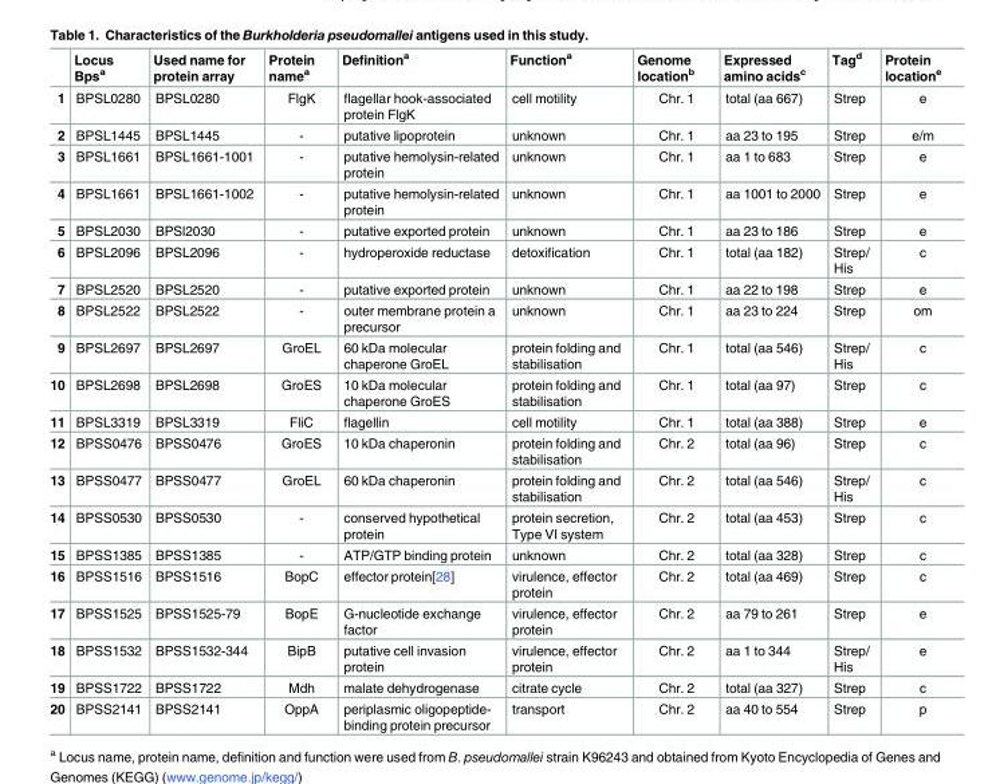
<table><thead><tr><td></td><td>Locus Bps<sup>a</sup></td><td>Used name for protein array</td><td>Protein name<sup>a</sup></td><td>Definition<sup>a</sup></td><td>Function<sup>a</sup></td><td>Genome location<sup>b</sup></td><td>Expressed amino acids<sup>c</sup></td><td>Tag<sup>d</sup></td><td>Protein location<sup>e</sup></td></tr></thead><tbody><tr><td>1</td><td>BPSL0280</td><td>BPSL0280</td><td>FlgK</td><td>flagellar hook-associated protein FlgK</td><td>cell motility</td><td>Chr. 1</td><td>total (aa 667)</td><td>Strep</td><td>e</td></tr><tr><td>2</td><td>BPSL1445</td><td>BPSL1445</td><td>-</td><td>putative lipoprotein</td><td>unknown</td><td>Chr. 1</td><td>aa 23 to 195</td><td>Strep</td><td>e/m</td></tr><tr><td>3</td><td>BPSL1661</td><td>BPSL1661-1001</td><td>-</td><td>putative hemolysin-related protein</td><td>unknown</td><td>Chr. 1</td><td>aa 1 to 683</td><td>Strep</td><td>e</td></tr><tr><td>4</td><td>BPSL1661</td><td>BPSL1661-1002</td><td>-</td><td>putative hemolysin-related protein</td><td>unknown</td><td>Chr. 1</td><td>aa 1001 to 2000</td><td>Strep</td><td>e</td></tr><tr><td>5</td><td>BPSL2030</td><td>BPSl2030</td><td>-</td><td>putative exported protein</td><td>unknown</td><td>Chr. 1</td><td>aa 23 to 186</td><td>Strep</td><td>e</td></tr><tr><td>6</td><td>BPSL2096</td><td>BPSL2096</td><td>-</td><td>hydroperoxide reductase</td><td>detoxification</td><td>Chr. 1</td><td>total (aa 182)</td><td>Strep/ His</td><td>c</td></tr><tr><td>7</td><td>BPSL2520</td><td>BPSL2520</td><td>-</td><td>putative exported protein</td><td>unknown</td><td>Chr. 1</td><td>aa 22 to 198</td><td>Strep</td><td>e</td></tr><tr><td>8</td><td>BPSL2522</td><td>BPSL2522</td><td>-</td><td>outer membrane protein a precursor</td><td>unknown</td><td>Chr. 1</td><td>aa 23 to 224</td><td>Strep</td><td>om</td></tr><tr><td>9</td><td>BPSL2697</td><td>BPSL2697</td><td>GroEL</td><td>60 kDa molecular chaperone GroEL</td><td>protein folding and stabilisation</td><td>Chr. 1</td><td>total (aa 546)</td><td>Strep/ His</td><td>c</td></tr><tr><td>10</td><td>BPSL2698</td><td>BPSL2698</td><td>GroES</td><td>10 kDa molecular chaperone GroES</td><td>protein folding and stabilisation</td><td>Chr. 1</td><td>total (aa 97)</td><td>Strep</td><td>c</td></tr><tr><td>11</td><td>BPSL3319</td><td>BPSL3319</td><td>FliC</td><td>flagellin</td><td>cell motility</td><td>Chr. 1</td><td>total (aa 388)</td><td>Strep</td><td>e</td></tr><tr><td>12</td><td>BPSS0476</td><td>BPSS0476</td><td>GroES</td><td>10 kDa chaperonin</td><td>protein folding and stabilisation</td><td>Chr. 2</td><td>total (aa 96)</td><td>Strep</td><td>c</td></tr><tr><td>13</td><td>BPSS0477</td><td>BPSS0477</td><td>GroEL</td><td>60 kDa chaperonin</td><td>protein folding and stabilisation</td><td>Chr. 2</td><td>total (aa 546)</td><td>Strep/ His</td><td>c</td></tr><tr><td>14</td><td>BPSS0530</td><td>BPSS0530</td><td>-</td><td>conserved hypothetical protein</td><td>protein secretion, Type VI system</td><td>Chr. 2</td><td>total (aa 453)</td><td>Strep</td><td>c</td></tr><tr><td>15</td><td>BPSS1385</td><td>BPSS1385</td><td>-</td><td>ATP/GTP binding protein</td><td>unknown</td><td>Chr. 2</td><td>total (aa 328)</td><td>Strep</td><td>c</td></tr><tr><td>16</td><td>BPSS1516</td><td>BPSS1516</td><td>BopC</td><td>effector protein[28]</td><td>virulence, effector protein</td><td>Chr. 2</td><td>total (aa 469)</td><td>Strep</td><td>c</td></tr><tr><td>17</td><td>BPSS1525</td><td>BPSS1525-79</td><td>BopE</td><td>G-nucleotide exchange factor</td><td>virulence, effector protein</td><td>Chr. 2</td><td>aa 79 to 261</td><td>Strep</td><td>e</td></tr><tr><td>18</td><td>BPSS1532</td><td>BPSS1532-344</td><td>BipB</td><td>putative cell invasion protein</td><td>virulence, effector protein</td><td>Chr. 2</td><td>aa 1 to 344</td><td>Strep/ His</td><td>e</td></tr><tr><td>19</td><td>BPSS1722</td><td>BPSS1722</td><td>Mdh</td><td>malate dehydrogenase</td><td>citrate cycle</td><td>Chr. 2</td><td>total (aa 327)</td><td>Strep</td><td>c</td></tr><tr><td>20</td><td>BPSS2141</td><td>BPSS2141</td><td>OppA</td><td>periplasmic oligopeptide- binding protein precursor</td><td>transport</td><td>Chr. 2</td><td>aa 40 to 554</td><td>Strep</td><td>p</td></tr></tbody></table>